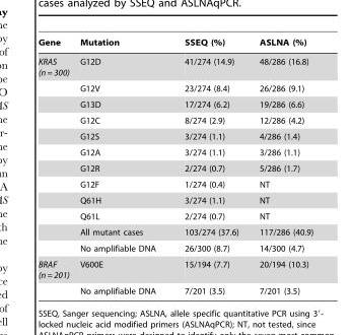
<table><thead><tr><td>Gene</td><td>Mutation</td><td>SSEQ (%)</td><td>ASLNA (%)</td></tr></thead><tbody><tr><td rowspan="12">KRAS (n = 300)</td><td>G12D</td><td>41/274 (14.9)</td><td>48/286 (16.8)</td></tr><tr><td>G12V</td><td>23/274 (8.4)</td><td>26/286 (9.1)</td></tr><tr><td>G13D</td><td>17/274 (6.2)</td><td>19/286 (6.6)</td></tr><tr><td>G12C</td><td>8/274 (2.9)</td><td>12/286 (4.2)</td></tr><tr><td>G12S</td><td>3/274 (1.1)</td><td>4/286 (1.4)</td></tr><tr><td>G12A</td><td>3/274 (1.1)</td><td>3/286 (1.1)</td></tr><tr><td>G12R</td><td>2/274 (0.7)</td><td>5/286 (1.7)</td></tr><tr><td>G12F</td><td>1/274 (0.4)</td><td>NT</td></tr><tr><td>Q61H</td><td>3/274 (1.1)</td><td>NT</td></tr><tr><td>Q61L</td><td>2/274 (0.7)</td><td>NT</td></tr><tr><td>All mutant cases</td><td>103/274 (37.6)</td><td>117/286 (40.9)</td></tr><tr><td>No amplifiable DNA</td><td>26/300 (8.7)</td><td>14/300 (4.7)</td></tr><tr><td rowspan="2">BRAF (n = 201)</td><td>V600E</td><td>15/194 (7.7)</td><td>20/194 (10.3)</td></tr><tr><td>No amplifiable DNA</td><td>7/201 (3.5)</td><td>7/201 (3.5)</td></tr></tbody></table>